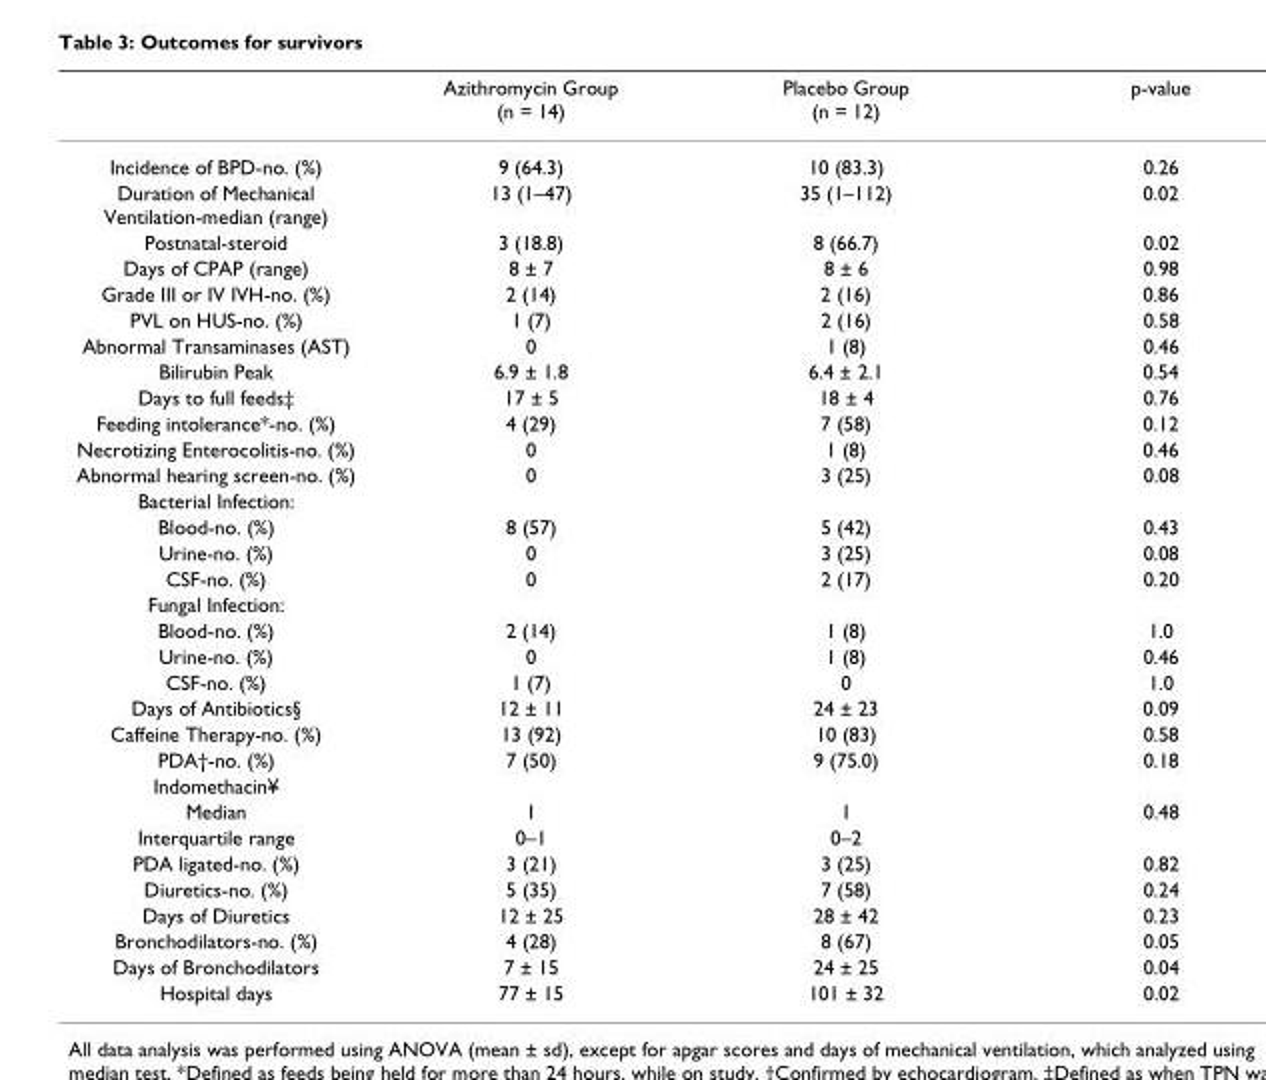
<table><thead><tr><td></td><td>Azithromycin Group (n = 14)</td><td>Placebo Group (n = 12)</td><td>p-value</td></tr></thead><tbody><tr><td>Incidence of BPD-no. (%)</td><td>9 (64.3)</td><td>10 (83.3)</td><td>0.26</td></tr><tr><td>Duration of Mechanical Ventilation-median (range)</td><td>13 (1–47)</td><td>35 (1–112)</td><td>0.02</td></tr><tr><td>Postnatal-steroid</td><td>3 (18.8)</td><td>8 (66.7)</td><td>0.02</td></tr><tr><td>Days of CPAP (range)</td><td>8 ± 7</td><td>8 ± 6</td><td>0.98</td></tr><tr><td>Grade III or IV IVH-no. (%)</td><td>2 (14)</td><td>2 (16)</td><td>0.86</td></tr><tr><td>PVL on HUS-no. (%)</td><td>1 (7)</td><td>2 (16)</td><td>0.58</td></tr><tr><td>Abnormal Transaminases (AST)</td><td>0</td><td>1 (8)</td><td>0.46</td></tr><tr><td>Bilirubin Peak</td><td>6.9 ± 1.8</td><td>6.4 ± 2.1</td><td>0.54</td></tr><tr><td>Days to full feeds‡</td><td>17 ± 5</td><td>18 ± 4</td><td>0.76</td></tr><tr><td>Feeding intolerance*-no. (%)</td><td>4 (29)</td><td>7 (58)</td><td>0.12</td></tr><tr><td>Necrotizing Enterocolitis-no. (%)</td><td>0</td><td>1 (8)</td><td>0.46</td></tr><tr><td>Abnormal hearing screen-no. (%)</td><td>0</td><td>3 (25)</td><td>0.08</td></tr><tr><td colspan="4">Bacterial Infection:</td></tr><tr><td>Blood-no. (%)</td><td>8 (57)</td><td>5 (42)</td><td>0.43</td></tr><tr><td>Urine-no. (%)</td><td>0</td><td>3 (25)</td><td>0.08</td></tr><tr><td>CSF-no. (%)</td><td>0</td><td>2 (17)</td><td>0.20</td></tr><tr><td colspan="4">Fungal Infection:</td></tr><tr><td>Blood-no. (%)</td><td>2 (14)</td><td>1 (8)</td><td>1.0</td></tr><tr><td>Urine-no. (%)</td><td>0</td><td>1 (8)</td><td>0.46</td></tr><tr><td>CSF-no. (%)</td><td>1 (7)</td><td>0</td><td>1.0</td></tr><tr><td>Days of Antibiotics§</td><td>12 ± 11</td><td>24 ± 23</td><td>0.09</td></tr><tr><td>Caffeine Therapy-no. (%)</td><td>13 (92)</td><td>10 (83)</td><td>0.58</td></tr><tr><td>PDA†-no. (%)</td><td>7 (50)</td><td>9 (75.0)</td><td>0.18</td></tr><tr><td colspan="4">Indomethacin¥</td></tr><tr><td>Median</td><td>1</td><td>1</td><td>0.48</td></tr><tr><td>Interquartile range</td><td>0–1</td><td>0–2</td><td></td></tr><tr><td>PDA ligated-no. (%)</td><td>3 (21)</td><td>3 (25)</td><td>0.82</td></tr><tr><td>Diuretics-no. (%)</td><td>5 (35)</td><td>7 (58)</td><td>0.24</td></tr><tr><td>Days of Diuretics</td><td>12 ± 25</td><td>28 ± 42</td><td>0.23</td></tr><tr><td>Bronchodilators-no. (%)</td><td>4 (28)</td><td>8 (67)</td><td>0.05</td></tr><tr><td>Days of Bronchodilators</td><td>7 ± 15</td><td>24 ± 25</td><td>0.04</td></tr><tr><td>Hospital days</td><td>77 ± 15</td><td>101 ± 32</td><td>0.02</td></tr></tbody></table>